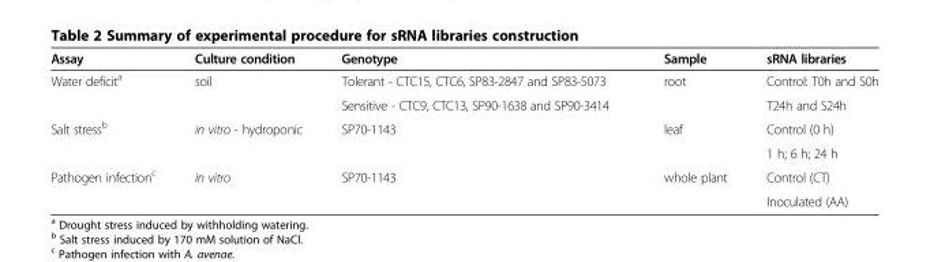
<table><thead><tr><td>Assay</td><td>Culture condition</td><td>Genotype</td><td>Sample</td><td>sRNA libraries</td></tr></thead><tbody><tr><td rowspan="2">Water deficit<sup>a</sup></td><td rowspan="2">soil</td><td>Tolerant - CTC15, CTC6, SP83-2847 and SP83-5073</td><td rowspan="2">root</td><td>Control: T0h and S0h</td></tr><tr><td>Sensitive - CTC9, CTC13, SP90-1638 and SP90-3414</td><td>T24h and S24h</td></tr><tr><td rowspan="2">Salt stress<sup>b</sup></td><td rowspan="2">in vitro - hydroponic</td><td rowspan="2">SP70-1143</td><td rowspan="2">leaf</td><td>Control (0 h)</td></tr><tr><td>1 h; 6 h; 24 h</td></tr><tr><td rowspan="2">Pathogen infection<sup>c</sup></td><td>in vitro</td><td>SP70-1143</td><td>whole plant</td><td>Control (CT)</td></tr><tr><td></td><td></td><td></td><td>Inoculated (AA)</td></tr></tbody></table>